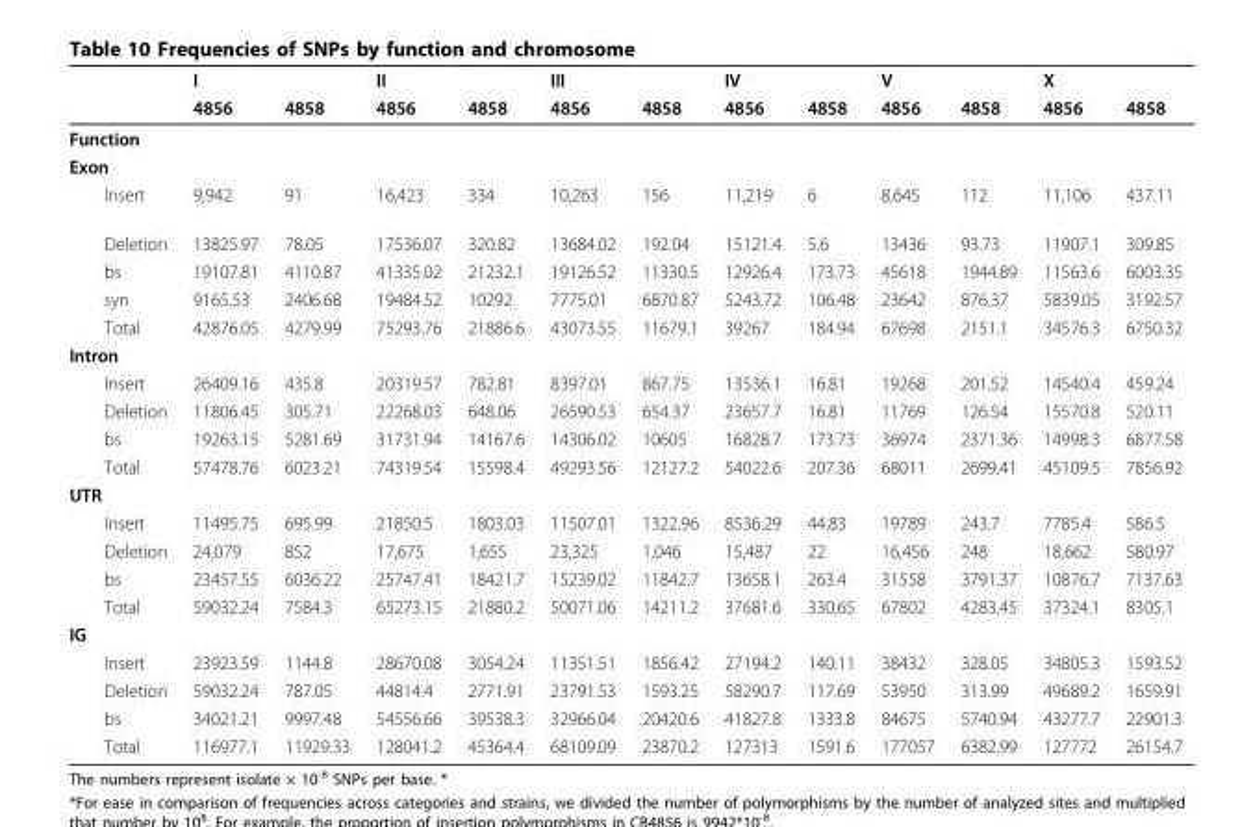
<table><thead><tr><td rowspan="2"></td><td rowspan="2">I 4856</td><td rowspan="2">4858</td><td rowspan="2">II 4856</td><td rowspan="2">4858</td><td rowspan="2">III 4856</td><td rowspan="2">4858</td><td rowspan="2">IV 4856</td><td rowspan="2">4858</td><td rowspan="2">V 4856</td><td rowspan="2">4858</td><td rowspan="2">X 4856</td><td rowspan="2">4858</td></tr><tr></tr></thead><tbody><tr><td colspan="13">Function</td></tr><tr><td colspan="13">Exon</td></tr><tr><td>Insert</td><td>9,942</td><td>91</td><td>16,423</td><td>334</td><td>10,263</td><td>156</td><td>11,219</td><td>6</td><td>8,645</td><td>112</td><td>11,106</td><td>437.11</td></tr><tr><td>Deletion</td><td>13825.97</td><td>78.05</td><td>17536.07</td><td>320.82</td><td>13684.02</td><td>192.04</td><td>15121.4</td><td>5.6</td><td>13436</td><td>93.73</td><td>11907.1</td><td>309.85</td></tr><tr><td>bs</td><td>19107.81</td><td>4110.87</td><td>41335.02</td><td>21232.1</td><td>19126.52</td><td>11330.5</td><td>12926.4</td><td>173.73</td><td>45618</td><td>1944.89</td><td>11563.6</td><td>6003.35</td></tr><tr><td>syn</td><td>9165.53</td><td>2406.68</td><td>19484.52</td><td>10292</td><td>7775.01</td><td>6870.87</td><td>5243.72</td><td>106.48</td><td>23642</td><td>876.37</td><td>5839.05</td><td>3192.57</td></tr><tr><td>Total</td><td>42876.05</td><td>4279.99</td><td>75293.76</td><td>21886.6</td><td>43073.55</td><td>11679.1</td><td>39267</td><td>184.94</td><td>67698</td><td>2151.1</td><td>34576.3</td><td>6750.32</td></tr><tr><td colspan="13">Intron</td></tr><tr><td>Insert</td><td>26409.16</td><td>435.8</td><td>20319.57</td><td>782.81</td><td>8397.01</td><td>867.75</td><td>13536.1</td><td>16.81</td><td>19268</td><td>201.52</td><td>14540.4</td><td>459.24</td></tr><tr><td>Deletion</td><td>11806.45</td><td>305.71</td><td>22268.03</td><td>648.06</td><td>26590.53</td><td>654.37</td><td>23657.7</td><td>16.81</td><td>11769</td><td>126.54</td><td>15570.8</td><td>520.11</td></tr><tr><td>bs</td><td>19263.15</td><td>5281.69</td><td>31731.94</td><td>14167.6</td><td>14306.02</td><td>10605</td><td>16828.7</td><td>173.73</td><td>36974</td><td>2371.36</td><td>14998.3</td><td>6877.58</td></tr><tr><td>Total</td><td>57478.76</td><td>6023.21</td><td>74319.54</td><td>15598.4</td><td>49293.56</td><td>12127.2</td><td>54022.6</td><td>207.36</td><td>68011</td><td>2699.41</td><td>45109.5</td><td>7856.92</td></tr><tr><td colspan="13">UTR</td></tr><tr><td>Insert</td><td>11495.75</td><td>695.99</td><td>21850.5</td><td>1803.03</td><td>11507.01</td><td>1322.96</td><td>8536.29</td><td>44.83</td><td>19789</td><td>243.7</td><td>7785.4</td><td>586.5</td></tr><tr><td>Deletion</td><td>24,079</td><td>852</td><td>17,675</td><td>1,655</td><td>23,325</td><td>1,046</td><td>15,487</td><td>22</td><td>16,456</td><td>248</td><td>18,662</td><td>580.97</td></tr><tr><td>bs</td><td>23457.55</td><td>6036.22</td><td>25747.41</td><td>18421.7</td><td>15239.02</td><td>11842.7</td><td>13658.1</td><td>263.4</td><td>31558</td><td>3791.37</td><td>10876.7</td><td>7137.63</td></tr><tr><td>Total</td><td>59032.24</td><td>7584.3</td><td>65273.15</td><td>21880.2</td><td>50071.06</td><td>14211.2</td><td>37681.6</td><td>330.65</td><td>67802</td><td>4283.45</td><td>37324.1</td><td>8305.1</td></tr><tr><td colspan="13">IG</td></tr><tr><td>Insert</td><td>23923.59</td><td>1144.8</td><td>28670.08</td><td>3054.24</td><td>11351.51</td><td>1856.42</td><td>27194.2</td><td>140.11</td><td>38432</td><td>328.05</td><td>34805.3</td><td>1593.52</td></tr><tr><td>Deletion</td><td>59032.24</td><td>787.05</td><td>44814.4</td><td>2771.91</td><td>23791.53</td><td>1593.25</td><td>58290.7</td><td>117.69</td><td>53950</td><td>313.99</td><td>49689.2</td><td>1659.91</td></tr><tr><td>bs</td><td>34021.21</td><td>9997.48</td><td>54556.66</td><td>39538.3</td><td>32966.04</td><td>20420.6</td><td>41827.8</td><td>1333.8</td><td>84675</td><td>5740.94</td><td>43277.7</td><td>22901.3</td></tr><tr><td>Total</td><td>116977.1</td><td>11929.33</td><td>128041.2</td><td>45364.4</td><td>68109.09</td><td>23870.2</td><td>127313</td><td>1591.6</td><td>177057</td><td>6382.99</td><td>127772</td><td>26154.7</td></tr></tbody></table>